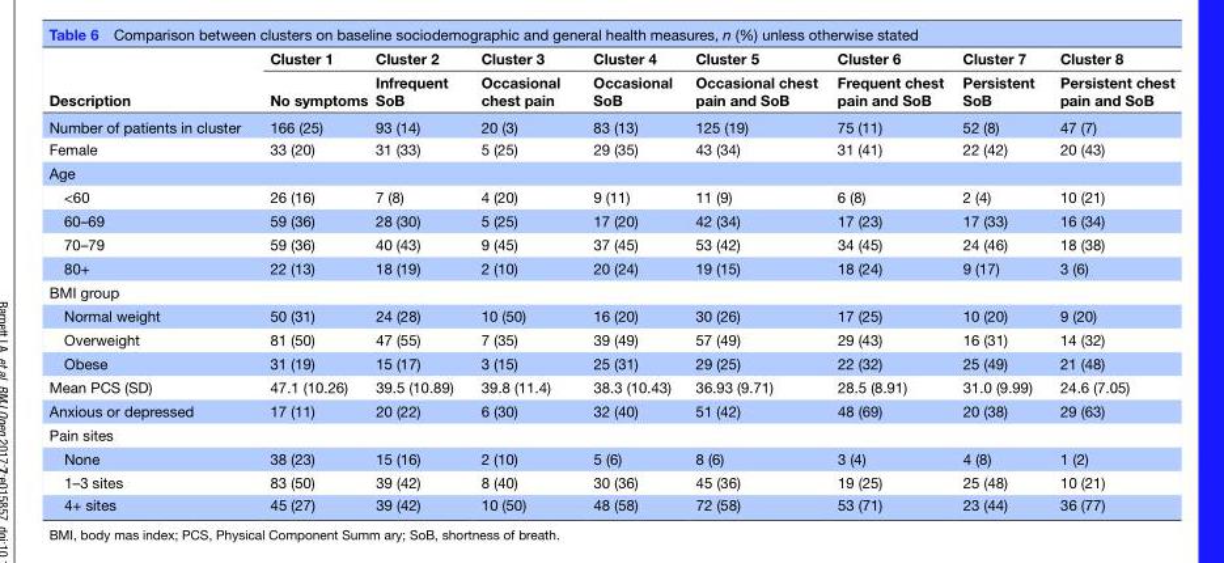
<table><thead><tr><td rowspan="2">Description</td><td rowspan="2">Cluster 1 No symptoms</td><td rowspan="2">Cluster 2 Infrequent SoB</td><td rowspan="2">Cluster 3 Occasional chest pain</td><td rowspan="2">Cluster 4 Occasional SoB</td><td rowspan="2">Cluster 5 Occasional chest pain and SoB</td><td rowspan="2">Cluster 6 Frequent chest pain and SoB</td><td rowspan="2">Cluster 7 Persistent SoB</td><td rowspan="2">Cluster 8 Persistent chest pain and SoB</td></tr><tr></tr></thead><tbody><tr><td>Number of patients in cluster</td><td>166 (25)</td><td>93 (14)</td><td>20 (3)</td><td>83 (13)</td><td>125 (19)</td><td>75 (11)</td><td>52 (8)</td><td>47 (7)</td></tr><tr><td>Female</td><td>33 (20)</td><td>31 (33)</td><td>5 (25)</td><td>29 (35)</td><td>43 (34)</td><td>31 (41)</td><td>22 (42)</td><td>20 (43)</td></tr><tr><td colspan="9">Age</td></tr><tr><td>&lt;60</td><td>26 (16)</td><td>7 (8)</td><td>4 (20)</td><td>9 (11)</td><td>11 (9)</td><td>6 (8)</td><td>2 (4)</td><td>10 (21)</td></tr><tr><td>60–69</td><td>59 (36)</td><td>28 (30)</td><td>5 (25)</td><td>17 (20)</td><td>42 (34)</td><td>17 (23)</td><td>17 (33)</td><td>16 (34)</td></tr><tr><td>70–79</td><td>59 (36)</td><td>40 (43)</td><td>9 (45)</td><td>37 (45)</td><td>53 (42)</td><td>34 (45)</td><td>24 (46)</td><td>18 (38)</td></tr><tr><td>80+</td><td>22 (13)</td><td>18 (19)</td><td>2 (10)</td><td>20 (24)</td><td>19 (15)</td><td>18 (24)</td><td>9 (17)</td><td>3 (6)</td></tr><tr><td colspan="9">BMI group</td></tr><tr><td>Normal weight</td><td>50 (31)</td><td>24 (28)</td><td>10 (50)</td><td>16 (20)</td><td>30 (26)</td><td>17 (25)</td><td>10 (20)</td><td>9 (20)</td></tr><tr><td>Overweight</td><td>81 (50)</td><td>47 (55)</td><td>7 (35)</td><td>39 (49)</td><td>57 (49)</td><td>29 (43)</td><td>16 (31)</td><td>14 (32)</td></tr><tr><td>Obese</td><td>31 (19)</td><td>15 (17)</td><td>3 (15)</td><td>25 (31)</td><td>29 (25)</td><td>22 (32)</td><td>25 (49)</td><td>21 (48)</td></tr><tr><td>Mean PCS (SD)</td><td>47.1 (10.26)</td><td>39.5 (10.89)</td><td>39.8 (11.4)</td><td>38.3 (10.43)</td><td>36.93 (9.71)</td><td>28.5 (8.91)</td><td>31.0 (9.99)</td><td>24.6 (7.05)</td></tr><tr><td>Anxious or depressed</td><td>17 (11)</td><td>20 (22)</td><td>6 (30)</td><td>32 (40)</td><td>51 (42)</td><td>48 (69)</td><td>20 (38)</td><td>29 (63)</td></tr><tr><td colspan="9">Pain sites</td></tr><tr><td>None</td><td>38 (23)</td><td>15 (16)</td><td>2 (10)</td><td>5 (6)</td><td>8 (6)</td><td>3 (4)</td><td>4 (8)</td><td>1 (2)</td></tr><tr><td>1–3 sites</td><td>83 (50)</td><td>39 (42)</td><td>8 (40)</td><td>30 (36)</td><td>45 (36)</td><td>19 (25)</td><td>25 (48)</td><td>10 (21)</td></tr><tr><td>4+ sites</td><td>45 (27)</td><td>39 (42)</td><td>10 (50)</td><td>48 (58)</td><td>72 (58)</td><td>53 (71)</td><td>23 (44)</td><td>36 (77)</td></tr></tbody></table>